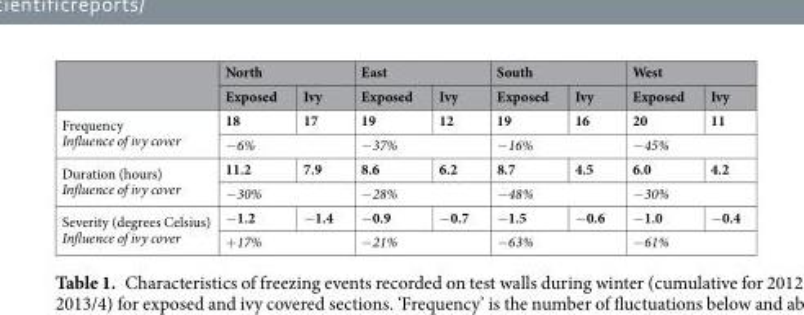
<table><thead><tr><td rowspan="2"></td><td colspan="2">North</td><td colspan="2">East</td><td colspan="2">South</td><td colspan="2">West</td></tr><tr><td>Exposed</td><td>Ivy</td><td>Exposed</td><td>Ivy</td><td>Exposed</td><td>Ivy</td><td>Exposed</td><td>Ivy</td></tr></thead><tbody><tr><td rowspan="2">Frequency Influence of ivy cover</td><td>18</td><td>17</td><td>19</td><td>12</td><td>19</td><td>16</td><td>20</td><td>11</td></tr><tr><td colspan="2">−6%</td><td colspan="2">−37%</td><td colspan="2">−16%</td><td colspan="2">−45%</td></tr><tr><td rowspan="2">Duration (hours) Influence of ivy cover</td><td>11.2</td><td>7.9</td><td>8.6</td><td>6.2</td><td>8.7</td><td>4.5</td><td>6.0</td><td>4.2</td></tr><tr><td colspan="2">−30%</td><td colspan="2">−28%</td><td colspan="2">−48%</td><td colspan="2">−30%</td></tr><tr><td rowspan="2">Severity (degrees Celsius) Influence of ivy cover</td><td>−1.2</td><td>−1.4</td><td>−0.9</td><td>−0.7</td><td>−1.5</td><td>−0.6</td><td>−1.0</td><td>−0.4</td></tr><tr><td colspan="2">+17%</td><td colspan="2">−21%</td><td colspan="2">−63%</td><td colspan="2">−61%</td></tr></tbody></table>